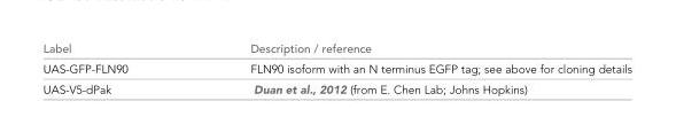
<table><thead><tr><td>Label</td><td>Description / reference</td></tr></thead><tbody><tr><td>UAS-GFP-FLN90</td><td>FLN90 isoform with an N terminus EGFP tag; see above for cloning details</td></tr><tr><td>UAS-V5-dPak</td><td>Duan et al., 2012 (from E. Chen Lab; Johns Hopkins)</td></tr></tbody></table>